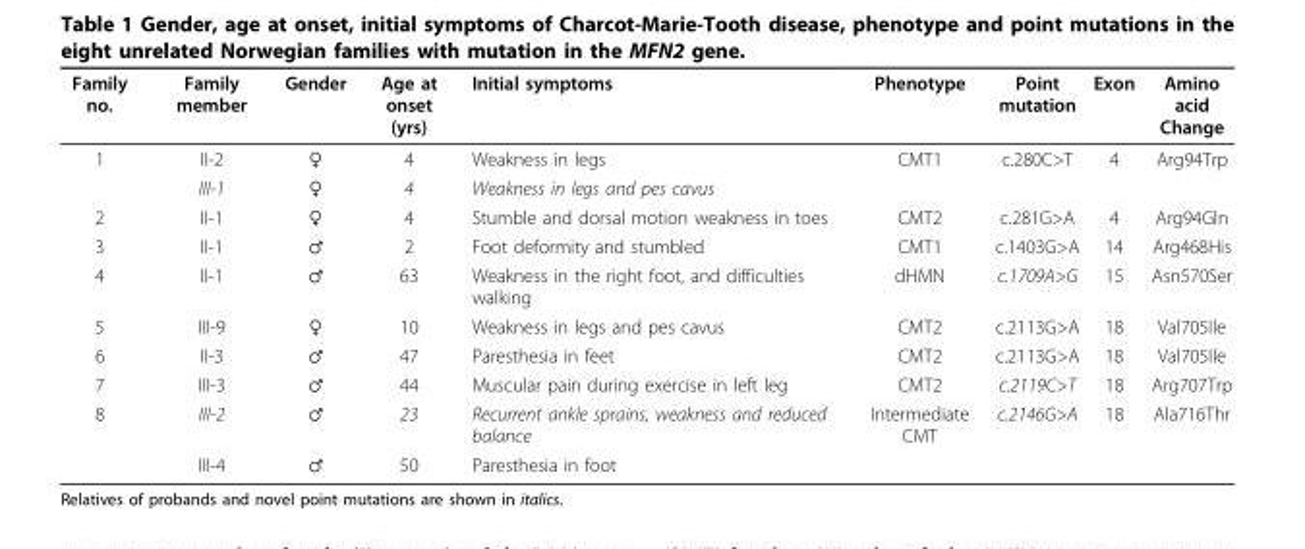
<table><thead><tr><td>Family no.</td><td>Family member</td><td>Gender</td><td>Age at onset (yrs)</td><td>Initial symptoms</td><td>Phenotype</td><td>Point mutation</td><td>Exon</td><td>Amino acid Change</td></tr></thead><tbody><tr><td rowspan="2">1</td><td>II-2</td><td>♀</td><td>4</td><td>Weakness in legs</td><td>CMT1</td><td>c.280C&gt;T</td><td>4</td><td>Arg94Trp</td></tr><tr><td>III-1</td><td>♀</td><td>4</td><td>Weakness in legs and pes cavus</td><td></td><td></td><td></td><td></td></tr><tr><td>2</td><td>II-1</td><td>♀</td><td>4</td><td>Stumble and dorsal motion weakness in toes</td><td>CMT2</td><td>c.281G&gt;A</td><td>4</td><td>Arg94Gln</td></tr><tr><td>3</td><td>II-1</td><td>♂</td><td>2</td><td>Foot deformity and stumbled</td><td>CMT1</td><td>c.1403G&gt;A</td><td>14</td><td>Arg468His</td></tr><tr><td>4</td><td>II-1</td><td>♂</td><td>63</td><td>Weakness in the right foot, and difficulties walking</td><td>dHMN</td><td>c.1709A&gt;G</td><td>15</td><td>Asn570Ser</td></tr><tr><td>5</td><td>III-9</td><td>♀</td><td>10</td><td>Weakness in legs and pes cavus</td><td>CMT2</td><td>c.2113G&gt;A</td><td>18</td><td>Val705Ile</td></tr><tr><td>6</td><td>II-3</td><td>♂</td><td>47</td><td>Paresthesia in feet</td><td>CMT2</td><td>c.2113G&gt;A</td><td>18</td><td>Val705Ile</td></tr><tr><td>7</td><td>III-3</td><td>♂</td><td>44</td><td>Muscular pain during exercise in left leg</td><td>CMT2</td><td>c.2119C&gt;T</td><td>18</td><td>Arg707Trp</td></tr><tr><td rowspan="2">8</td><td>III-2</td><td>♂</td><td>23</td><td>Recurrent ankle sprains, weakness and reduced balance</td><td>Intermediate CMT</td><td>c.2146G&gt;A</td><td>18</td><td>Ala716Thr</td></tr><tr><td>III-4</td><td>♂</td><td>50</td><td>Paresthesia in foot</td><td></td><td></td><td></td><td></td></tr></tbody></table>